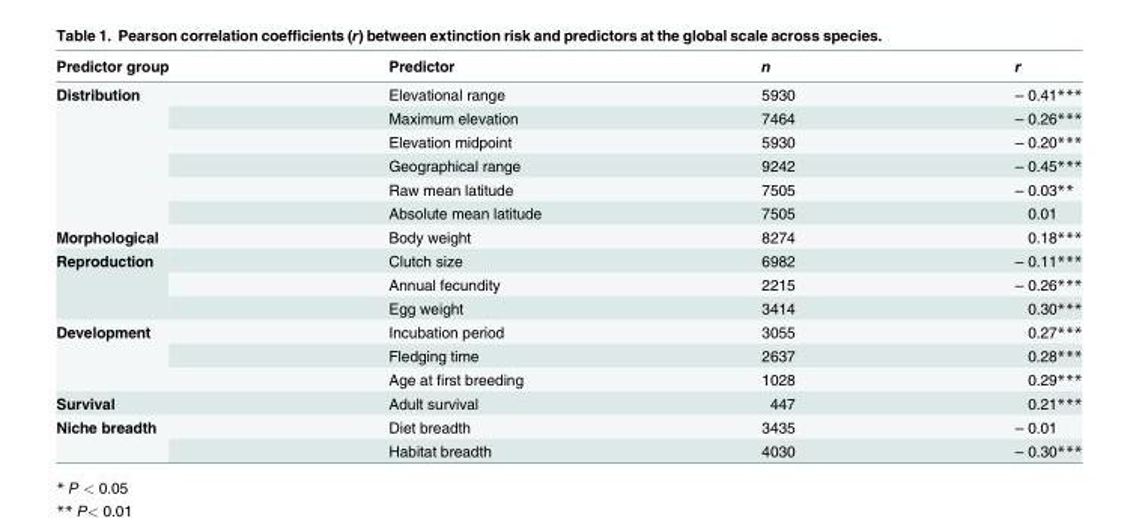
<table><thead><tr><td>Predictor group</td><td>Predictor</td><td>n</td><td>r</td></tr></thead><tbody><tr><td rowspan="6">Distribution</td><td>Elevational range</td><td>5930</td><td>– 0.41***</td></tr><tr><td>Maximum elevation</td><td>7464</td><td>– 0.26***</td></tr><tr><td>Elevation midpoint</td><td>5930</td><td>– 0.20***</td></tr><tr><td>Geographical range</td><td>9242</td><td>– 0.45***</td></tr><tr><td>Raw mean latitude</td><td>7505</td><td>– 0.03**</td></tr><tr><td>Absolute mean latitude</td><td>7505</td><td>0.01</td></tr><tr><td>Morphological</td><td>Body weight</td><td>8274</td><td>0.18***</td></tr><tr><td rowspan="3">Reproduction</td><td>Clutch size</td><td>6982</td><td>– 0.11***</td></tr><tr><td>Annual fecundity</td><td>2215</td><td>– 0.26***</td></tr><tr><td>Egg weight</td><td>3414</td><td>0.30***</td></tr><tr><td rowspan="3">Development</td><td>Incubation period</td><td>3055</td><td>0.27***</td></tr><tr><td>Fledging time</td><td>2637</td><td>0.28***</td></tr><tr><td>Age at first breeding</td><td>1028</td><td>0.29***</td></tr><tr><td>Survival</td><td>Adult survival</td><td>447</td><td>0.21***</td></tr><tr><td rowspan="2">Niche breadth</td><td>Diet breadth</td><td>3435</td><td>– 0.01</td></tr><tr><td>Habitat breadth</td><td>4030</td><td>– 0.30***</td></tr></tbody></table>